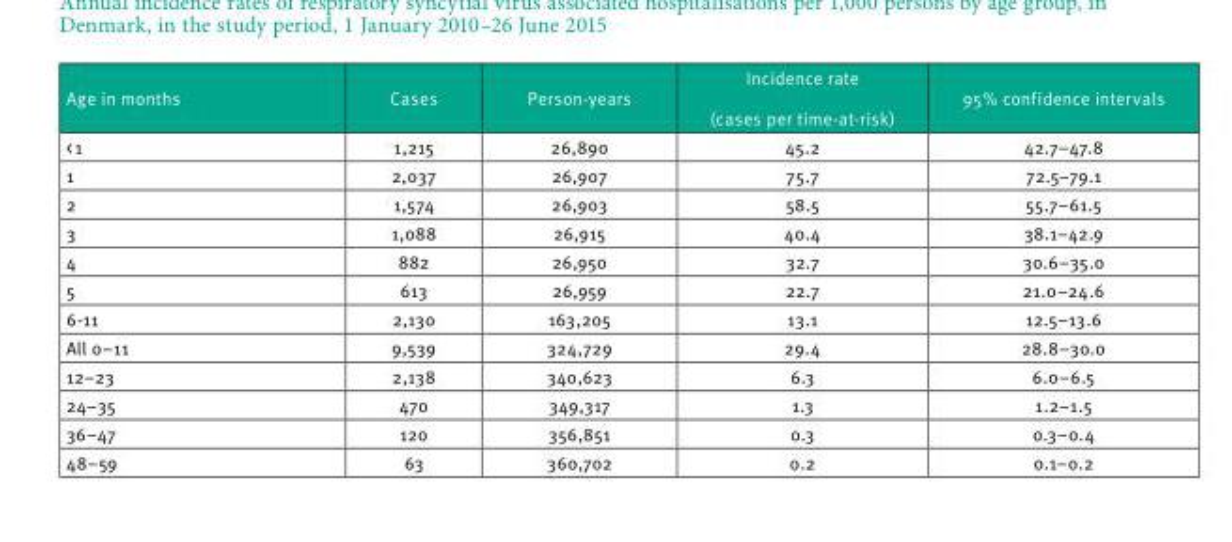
<table><thead><tr><td>Age in months</td><td>Cases</td><td>Person-years</td><td>Incidence rate (cases per time-at-risk)</td><td>95% confidence intervals</td></tr></thead><tbody><tr><td>&lt; 1</td><td>1,215</td><td>26,890</td><td>45.2</td><td>42.7–47.8</td></tr><tr><td>1</td><td>2,037</td><td>26,907</td><td>75.7</td><td>72.5–79.1</td></tr><tr><td>2</td><td>1,574</td><td>26,903</td><td>58.5</td><td>55.7–61.5</td></tr><tr><td>3</td><td>1,088</td><td>26,915</td><td>40.4</td><td>38.1–42.9</td></tr><tr><td>4</td><td>882</td><td>26,950</td><td>32.7</td><td>30.6–35.0</td></tr><tr><td>5</td><td>613</td><td>26,959</td><td>22.7</td><td>21.0–24.6</td></tr><tr><td>6-11</td><td>2,130</td><td>163,205</td><td>13.1</td><td>12.5–13.6</td></tr><tr><td>All 0–11</td><td>9,539</td><td>324,729</td><td>29.4</td><td>28.8–30.0</td></tr><tr><td>12–23</td><td>2,138</td><td>340,623</td><td>6.3</td><td>6.0–6.5</td></tr><tr><td>24–35</td><td>470</td><td>349,317</td><td>1.3</td><td>1.2–1.5</td></tr><tr><td>36–47</td><td>120</td><td>356,851</td><td>0.3</td><td>0.3–0.4</td></tr><tr><td>48–59</td><td>63</td><td>360,702</td><td>0.2</td><td>0.1–0.2</td></tr></tbody></table>